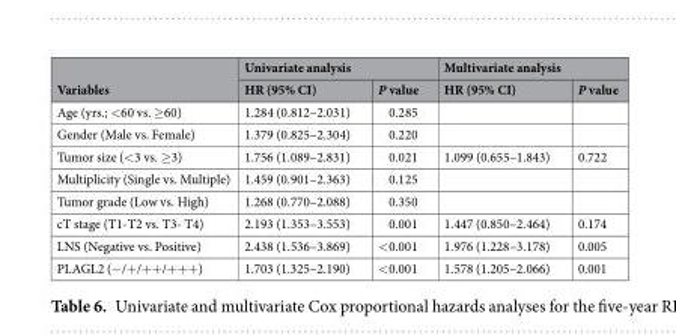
<table><thead><tr><td rowspan="2">Variables</td><td colspan="2">Univariate analysis</td><td colspan="2">Multivariate analysis</td></tr><tr><td>HR (95% CI)</td><td>P value</td><td>HR (95% CI)</td><td>P value</td></tr></thead><tbody><tr><td>Age (yrs.; &lt;60 vs. ≥60)</td><td>1.284 (0.812–2.031)</td><td>0.285</td><td></td><td></td></tr><tr><td>Gender (Male vs. Female)</td><td>1.379 (0.825–2.304)</td><td>0.220</td><td></td><td></td></tr><tr><td>Tumor size (&lt;3 vs. ≥3)</td><td>1.756 (1.089–2.831)</td><td>0.021</td><td>1.099 (0.655–1.843)</td><td>0.722</td></tr><tr><td>Multiplicity (Single vs. Multiple)</td><td>1.459 (0.901–2.363)</td><td>0.125</td><td></td><td></td></tr><tr><td>Tumor grade (Low vs. High)</td><td>1.268 (0.770–2.088)</td><td>0.350</td><td></td><td></td></tr><tr><td>cT stage (T1-T2 vs. T3- T4)</td><td>2.193 (1.353–3.553)</td><td>0.001</td><td>1.447 (0.850–2.464)</td><td>0.174</td></tr><tr><td>LNS (Negative vs. Positive)</td><td>2.438 (1.536–3.869)</td><td>&lt;0.001</td><td>1.976 (1.228–3.178)</td><td>0.005</td></tr><tr><td>PLAGL2 (−/+/++/+++)</td><td>1.703 (1.325–2.190)</td><td>&lt;0.001</td><td>1.578 (1.205–2.066)</td><td>0.001</td></tr></tbody></table>